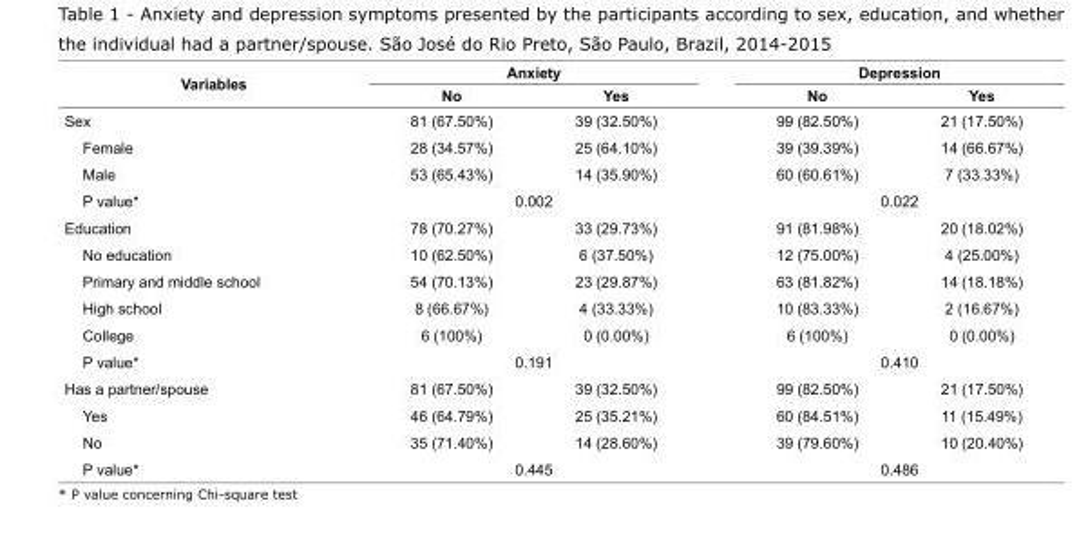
<table><thead><tr><td rowspan="2">Variables</td><td colspan="2">Anxiety</td><td colspan="2">Depression</td></tr><tr><td>No</td><td>Yes</td><td>No</td><td>Yes</td></tr></thead><tbody><tr><td>Sex</td><td>81 (67.50%)</td><td>39 (32.50%)</td><td>99 (82.50%)</td><td>21 (17.50%)</td></tr><tr><td>Female</td><td>28 (34.57%)</td><td>25 (64.10%)</td><td>39 (39.39%)</td><td>14 (66.67%)</td></tr><tr><td>Male</td><td>53 (65.43%)</td><td>14 (35.90%)</td><td>60 (60.61%)</td><td>7 (33.33%)</td></tr><tr><td>P value*</td><td colspan="2">0.002</td><td colspan="2">0.022</td></tr><tr><td>Education</td><td>78 (70.27%)</td><td>33 (29.73%)</td><td>91 (81.98%)</td><td>20 (18.02%)</td></tr><tr><td>No education</td><td>10 (62.50%)</td><td>6 (37.50%)</td><td>12 (75.00%)</td><td>4 (25.00%)</td></tr><tr><td>Primary and middle school</td><td>54 (70.13%)</td><td>23 (29.87%)</td><td>63 (81.82%)</td><td>14 (18.18%)</td></tr><tr><td>High school</td><td>8 (66.67%)</td><td>4 (33.33%)</td><td>10 (83.33%)</td><td>2 (16.67%)</td></tr><tr><td>College</td><td>6 (100%)</td><td>0 (0.00%)</td><td>6 (100%)</td><td>0 (0.00%)</td></tr><tr><td>P value*</td><td colspan="2">0.191</td><td colspan="2">0.410</td></tr><tr><td>Has a partner/spouse</td><td>81 (67.50%)</td><td>39 (32.50%)</td><td>99 (82.50%)</td><td>21 (17.50%)</td></tr><tr><td>Yes</td><td>46 (64.79%)</td><td>25 (35.21%)</td><td>60 (84.51%)</td><td>11 (15.49%)</td></tr><tr><td>No</td><td>35 (71.40%)</td><td>14 (28.60%)</td><td>39 (79.60%)</td><td>10 (20.40%)</td></tr><tr><td>P value*</td><td colspan="2">0.445</td><td>0.486</td><td></td></tr></tbody></table>